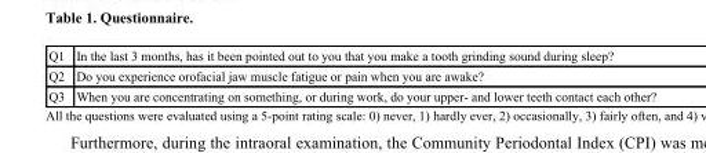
<table><tbody><tr><td>Q1</td><td>In the last 3 months, has it been pointed out to you that you make a tooth grinding sound during sleep?</td></tr><tr><td>Q2</td><td>Do you experience orofacial jaw muscle fatigue or pain when you are awake?</td></tr><tr><td>Q3</td><td>When you are concentrating on something, or during work, do your upper- and lower teeth contact each other?</td></tr></tbody></table>